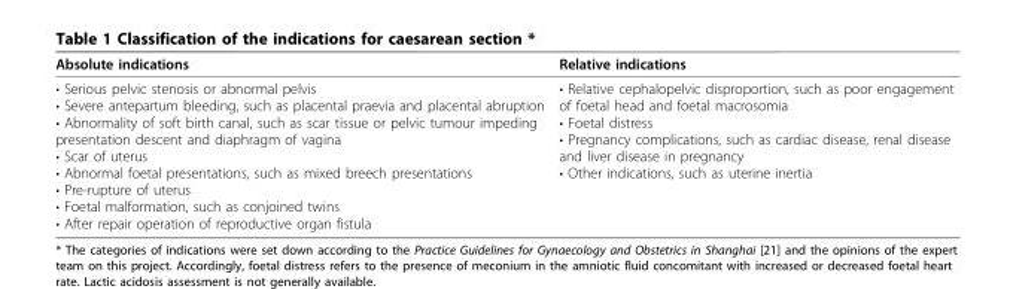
<table><thead><tr><td>Absolute indications</td><td>Relative indications</td></tr></thead><tbody><tr><td>• Serious pelvic stenosis or abnormal pelvis • Severe antepartum bleeding, such as placental praevia and placental abruption • Abnormality of soft birth canal, such as scar tissue or pelvic tumour impeding presentation descent and diaphragm of vagina • Scar of uterus • Abnormal foetal presentations, such as mixed breech presentations • Pre-rupture of uterus • Foetal malformation, such as conjoined twins • After repair operation of reproductive organ fistula</td><td>• Relative cephalopelvic disproportion, such as poor engagement of foetal head and foetal macrosomia • Foetal distress • Pregnancy complications, such as cardiac disease, renal disease and liver disease in pregnancy • Other indications, such as uterine inertia</td></tr></tbody></table>